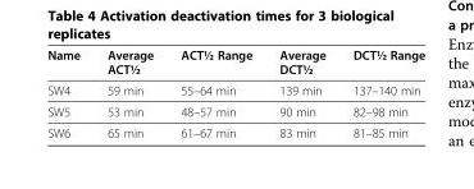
<table><thead><tr><td>Name</td><td>Average ACT½</td><td>ACT½ Range</td><td>Average DCT½</td><td>DCT½ Range</td></tr></thead><tbody><tr><td>SW4</td><td>59 min</td><td>55–64 min</td><td>139 min</td><td>137–140 min</td></tr><tr><td>SW5</td><td>53 min</td><td>48–57 min</td><td>90 min</td><td>82–98 min</td></tr><tr><td>SW6</td><td>65 min</td><td>61–67 min</td><td>83 min</td><td>81–85 min</td></tr></tbody></table>